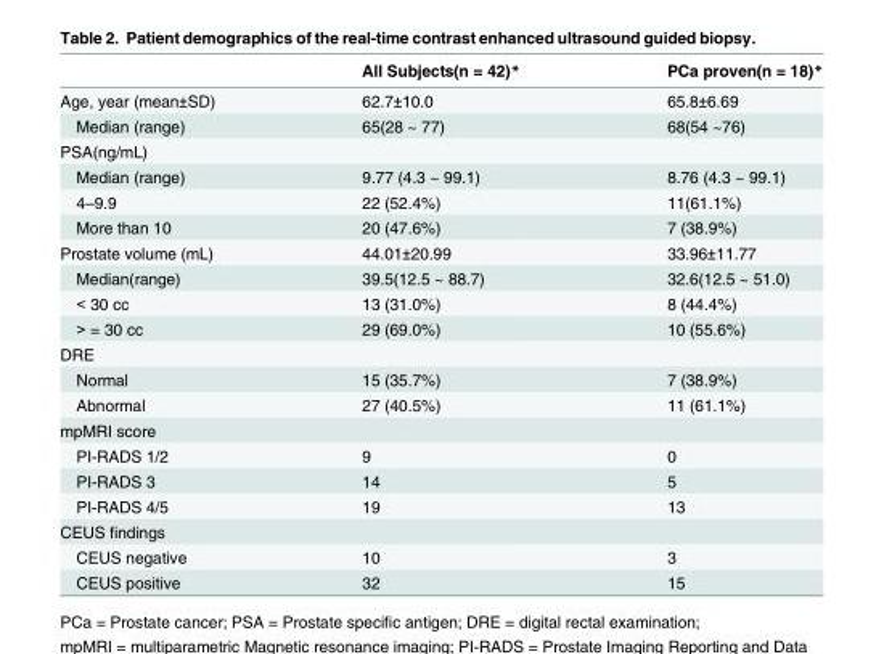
<table><thead><tr><td></td><td>All Subjects(n = 42)*</td><td>PCa proven(n = 18)*</td></tr></thead><tbody><tr><td>Age, year (mean±SD)</td><td>62.7±10.0</td><td>65.8±6.69</td></tr><tr><td>Median (range)</td><td>65(28 ~ 77)</td><td>68(54 ~76)</td></tr><tr><td colspan="3">PSA(ng/mL)</td></tr><tr><td>Median (range)</td><td>9.77 (4.3 ~ 99.1)</td><td>8.76 (4.3 ~ 99.1)</td></tr><tr><td>4–9.9</td><td>22 (52.4%)</td><td>11(61.1%)</td></tr><tr><td>More than 10</td><td>20 (47.6%)</td><td>7 (38.9%)</td></tr><tr><td>Prostate volume (mL)</td><td>44.01±20.99</td><td>33.96±11.77</td></tr><tr><td>Median(range)</td><td>39.5(12.5 ~ 88.7)</td><td>32.6(12.5 ~ 51.0)</td></tr><tr><td>&lt; 30 cc</td><td>13 (31.0%)</td><td>8 (44.4%)</td></tr><tr><td>&gt; = 30 cc</td><td>29 (69.0%)</td><td>10 (55.6%)</td></tr><tr><td colspan="3">DRE</td></tr><tr><td>Normal</td><td>15 (35.7%)</td><td>7 (38.9%)</td></tr><tr><td>Abnormal</td><td>27 (40.5%)</td><td>11 (61.1%)</td></tr><tr><td colspan="3">mpMRI score</td></tr><tr><td>PI-RADS 1/2</td><td>9</td><td>0</td></tr><tr><td>PI-RADS 3</td><td>14</td><td>5</td></tr><tr><td>PI-RADS 4/5</td><td>19</td><td>13</td></tr><tr><td colspan="3">CEUS findings</td></tr><tr><td>CEUS negative</td><td>10</td><td>3</td></tr><tr><td>CEUS positive</td><td>32</td><td>15</td></tr></tbody></table>